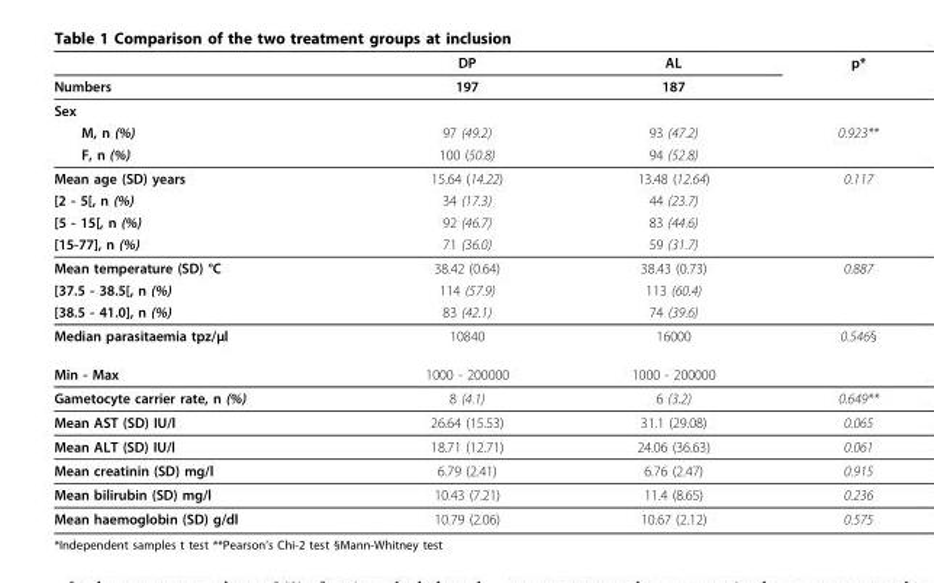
<table><thead><tr><td rowspan="2">Numbers</td><td rowspan="2">DP 197</td><td rowspan="2">AL 187</td><td rowspan="2">p*</td></tr><tr></tr></thead><tbody><tr><td colspan="4">Sex</td></tr><tr><td>M, n (%)</td><td>97 (49.2)</td><td>93 (47.2)</td><td>0.923**</td></tr><tr><td>F, n (%)</td><td>100 (50.8)</td><td>94 (52.8)</td><td></td></tr><tr><td>Mean age (SD) years</td><td>15.64 (14.22)</td><td>13.48 (12.64)</td><td>0.117</td></tr><tr><td>[2 - 5[, n (%)</td><td>34 (17.3)</td><td>44 (23.7)</td><td></td></tr><tr><td>[5 - 15[, n (%)</td><td>92 (46.7)</td><td>83 (44.6)</td><td></td></tr><tr><td>[15-77], n (%)</td><td>71 (36.0)</td><td>59 (31.7)</td><td></td></tr><tr><td>Mean temperature (SD) °C</td><td>38.42 (0.64)</td><td>38.43 (0.73)</td><td>0.887</td></tr><tr><td>[37.5 - 38.5[, n (%)</td><td>114 (57.9)</td><td>113 (60.4)</td><td></td></tr><tr><td>[38.5 - 41.0], n (%)</td><td>83 (42.1)</td><td>74 (39.6)</td><td></td></tr><tr><td>Median parasitaemia tpz/μl</td><td>10840</td><td>16000</td><td>0.546§</td></tr><tr><td>Min - Max</td><td>1000 - 200000</td><td>1000 - 200000</td><td></td></tr><tr><td>Gametocyte carrier rate, n (%)</td><td>8 (4.1)</td><td>6 (3.2)</td><td>0.649**</td></tr><tr><td>Mean AST (SD) IU/l</td><td>26.64 (15.53)</td><td>31.1 (29.08)</td><td>0.065</td></tr><tr><td>Mean ALT (SD) IU/l</td><td>18.71 (12.71)</td><td>24.06 (36.63)</td><td>0.061</td></tr><tr><td>Mean creatinin (SD) mg/l</td><td>6.79 (2.41)</td><td>6.76 (2.47)</td><td>0.915</td></tr><tr><td>Mean bilirubin (SD) mg/l</td><td>10.43 (7.21)</td><td>11.4 (8.65)</td><td>0.236</td></tr><tr><td>Mean haemoglobin (SD) g/dl</td><td>10.79 (2.06)</td><td>10.67 (2.12)</td><td>0.575</td></tr></tbody></table>